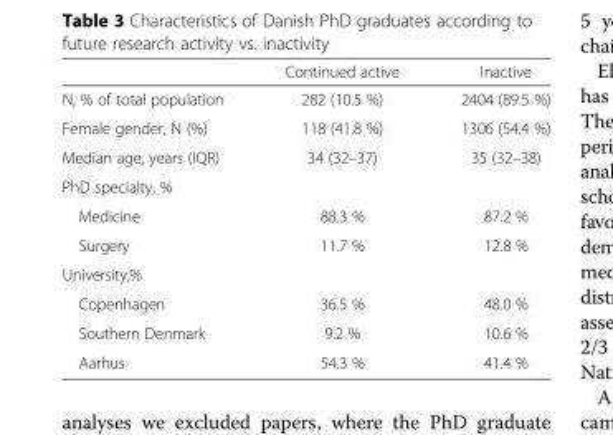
<table><thead><tr><td></td><td>Continued active</td><td>Inactive</td></tr></thead><tbody><tr><td>N, % of total population</td><td>282 (10.5 %)</td><td>2404 (89.5 %)</td></tr><tr><td>Female gender, N (%)</td><td>118 (41.8 %)</td><td>1306 (54.4 %)</td></tr><tr><td>Median age, years (IQR)</td><td>34 (32–37)</td><td>35 (32–38)</td></tr><tr><td colspan="3">PhD specialty, %</td></tr><tr><td>Medicine</td><td>88.3 %</td><td>87.2 %</td></tr><tr><td>Surgery</td><td>11.7 %</td><td>12.8 %</td></tr><tr><td colspan="3">University,%</td></tr><tr><td>Copenhagen</td><td>36.5 %</td><td>48.0 %</td></tr><tr><td>Southern Denmark</td><td>9.2 %</td><td>10.6 %</td></tr><tr><td>Aarhus</td><td>54.3 %</td><td>41.4 %</td></tr></tbody></table>